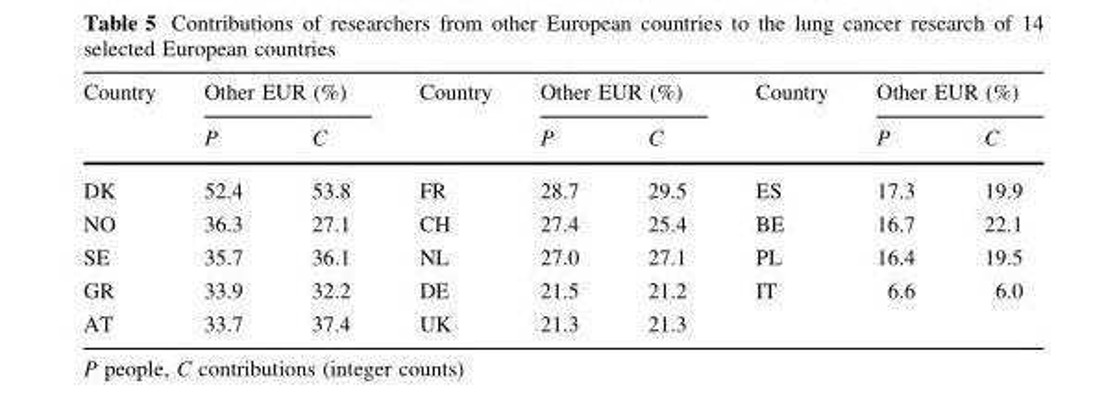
<table><thead><tr><td rowspan="2">Country</td><td colspan="2">Other EUR (%)</td><td rowspan="2">Country</td><td colspan="2">Other EUR (%)</td><td rowspan="2">Country</td><td colspan="2">Other EUR (%)</td></tr><tr><td>P</td><td>C</td><td>P</td><td>C</td><td>P</td><td>C</td></tr></thead><tbody><tr><td>DK</td><td>52.4</td><td>53.8</td><td>FR</td><td>28.7</td><td>29.5</td><td>ES</td><td>17.3</td><td>19.9</td></tr><tr><td>NO</td><td>36.3</td><td>27.1</td><td>CH</td><td>27.4</td><td>25.4</td><td>BE</td><td>16.7</td><td>22.1</td></tr><tr><td>SE</td><td>35.7</td><td>36.1</td><td>NL</td><td>27.0</td><td>27.1</td><td>PL</td><td>16.4</td><td>19.5</td></tr><tr><td>GR</td><td>33.9</td><td>32.2</td><td>DE</td><td>21.5</td><td>21.2</td><td>IT</td><td>6.6</td><td>6.0</td></tr><tr><td>AT</td><td>33.7</td><td>37.4</td><td>UK</td><td>21.3</td><td>21.3</td><td></td><td></td><td></td></tr></tbody></table>